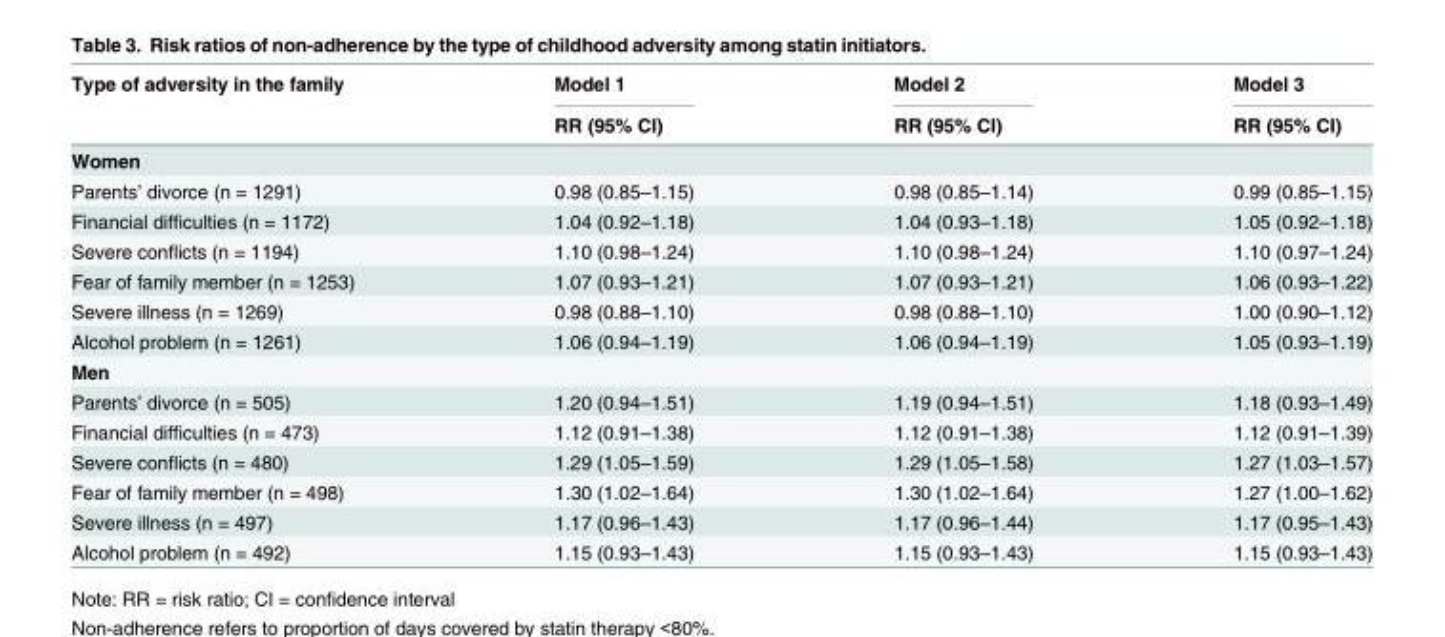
<table><thead><tr><td rowspan="2">Type of adversity in the family</td><td rowspan="2">Model 1 RR (95% CI)</td><td rowspan="2">Model 2 RR (95% CI)</td><td rowspan="2">Model 3 RR (95% CI)</td></tr><tr></tr></thead><tbody><tr><td colspan="4">Women</td></tr><tr><td>Parents’ divorce (n = 1291)</td><td>0.98 (0.85–1.15)</td><td>0.98 (0.85–1.14)</td><td>0.99 (0.85–1.15)</td></tr><tr><td>Financial difficulties (n = 1172)</td><td>1.04 (0.92–1.18)</td><td>1.04 (0.93–1.18)</td><td>1.05 (0.92–1.18)</td></tr><tr><td>Severe conflicts (n = 1194)</td><td>1.10 (0.98–1.24)</td><td>1.10 (0.98–1.24)</td><td>1.10 (0.97–1.24)</td></tr><tr><td>Fear of family member (n = 1253)</td><td>1.07 (0.93–1.21)</td><td>1.07 (0.93–1.21)</td><td>1.06 (0.93–1.22)</td></tr><tr><td>Severe illness (n = 1269)</td><td>0.98 (0.88–1.10)</td><td>0.98 (0.88–1.10)</td><td>1.00 (0.90–1.12)</td></tr><tr><td>Alcohol problem (n = 1261)</td><td>1.06 (0.94–1.19)</td><td>1.06 (0.94–1.19)</td><td>1.05 (0.93–1.19)</td></tr><tr><td colspan="4">Men</td></tr><tr><td>Parents’ divorce (n = 505)</td><td>1.20 (0.94–1.51)</td><td>1.19 (0.94–1.51)</td><td>1.18 (0.93–1.49)</td></tr><tr><td>Financial difficulties (n = 473)</td><td>1.12 (0.91–1.38)</td><td>1.12 (0.91–1.38)</td><td>1.12 (0.91–1.39)</td></tr><tr><td>Severe conflicts (n = 480)</td><td>1.29 (1.05–1.59)</td><td>1.29 (1.05–1.58)</td><td>1.27 (1.03–1.57)</td></tr><tr><td>Fear of family member (n = 498)</td><td>1.30 (1.02–1.64)</td><td>1.30 (1.02–1.64)</td><td>1.27 (1.00–1.62)</td></tr><tr><td>Severe illness (n = 497)</td><td>1.17 (0.96–1.43)</td><td>1.17 (0.96–1.44)</td><td>1.17 (0.95–1.43)</td></tr><tr><td>Alcohol problem (n = 492)</td><td>1.15 (0.93–1.43)</td><td>1.15 (0.93–1.43)</td><td>1.15 (0.93–1.43)</td></tr></tbody></table>